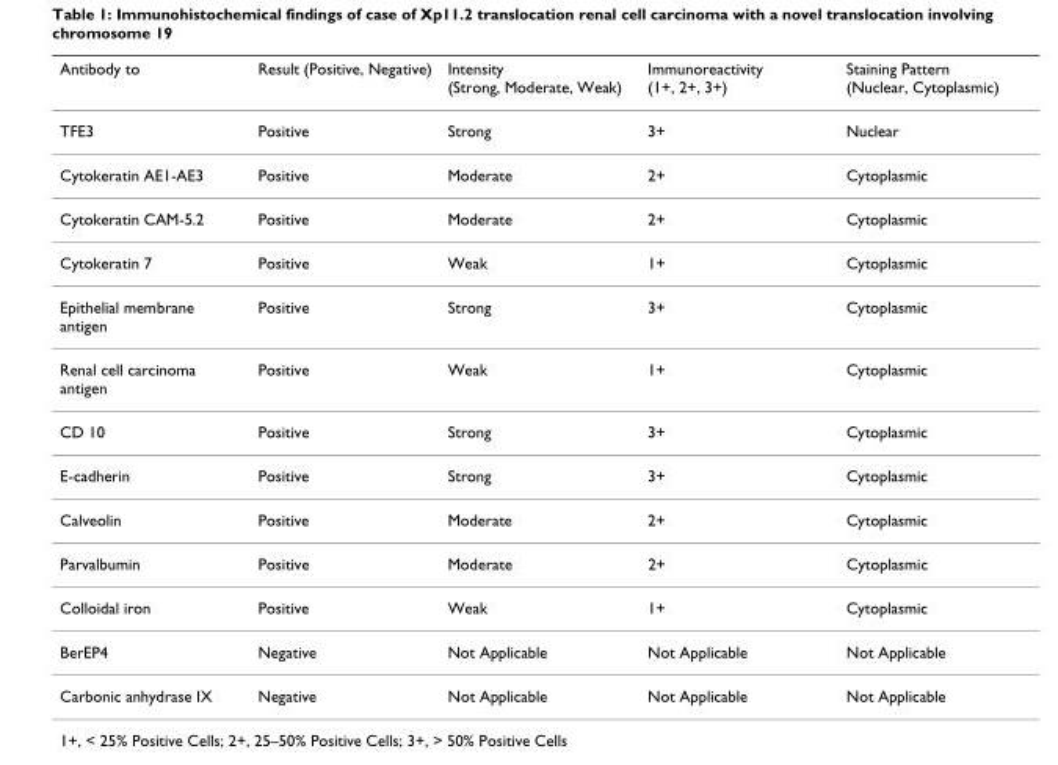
<table><thead><tr><td>Antibody to</td><td>Result (Positive, Negative)</td><td>Intensity (Strong, Moderate, Weak)</td><td>Immunoreactivity (1+, 2+, 3+)</td><td>Staining Pattern (Nuclear, Cytoplasmic)</td></tr></thead><tbody><tr><td>TFE3</td><td>Positive</td><td>Strong</td><td>3+</td><td>Nuclear</td></tr><tr><td>Cytokeratin AE1-AE3</td><td>Positive</td><td>Moderate</td><td>2+</td><td>Cytoplasmic</td></tr><tr><td>Cytokeratin CAM-5.2</td><td>Positive</td><td>Moderate</td><td>2+</td><td>Cytoplasmic</td></tr><tr><td>Cytokeratin 7</td><td>Positive</td><td>Weak</td><td>1+</td><td>Cytoplasmic</td></tr><tr><td>Epithelial membrane antigen</td><td>Positive</td><td>Strong</td><td>3+</td><td>Cytoplasmic</td></tr><tr><td>Renal cell carcinoma antigen</td><td>Positive</td><td>Weak</td><td>1+</td><td>Cytoplasmic</td></tr><tr><td>CD 10</td><td>Positive</td><td>Strong</td><td>3+</td><td>Cytoplasmic</td></tr><tr><td>E-cadherin</td><td>Positive</td><td>Strong</td><td>3+</td><td>Cytoplasmic</td></tr><tr><td>Calveolin</td><td>Positive</td><td>Moderate</td><td>2+</td><td>Cytoplasmic</td></tr><tr><td>Parvalbumin</td><td>Positive</td><td>Moderate</td><td>2+</td><td>Cytoplasmic</td></tr><tr><td>Colloidal iron</td><td>Positive</td><td>Weak</td><td>1+</td><td>Cytoplasmic</td></tr><tr><td>BerEP4</td><td>Negative</td><td>Not Applicable</td><td>Not Applicable</td><td>Not Applicable</td></tr><tr><td>Carbonic anhydrase IX</td><td>Negative</td><td>Not Applicable</td><td>Not Applicable</td><td>Not Applicable</td></tr></tbody></table>